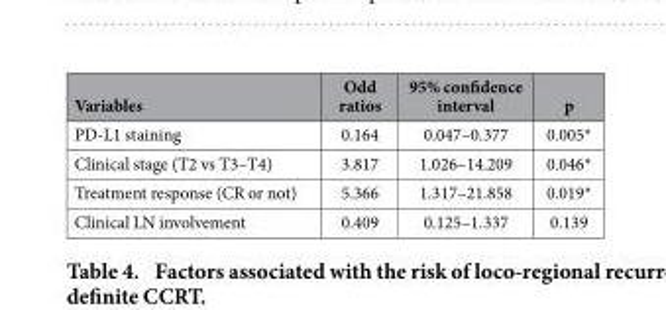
<table><thead><tr><td>Variables</td><td>Odd ratios</td><td>95% confidence interval</td><td>p</td></tr></thead><tbody><tr><td>PD-L1 staining</td><td>0.164</td><td>0.047–0.377</td><td>0.005*</td></tr><tr><td>Clinical stage (T2 vs T3–T4)</td><td>3.817</td><td>1.026–14.209</td><td>0.046*</td></tr><tr><td>Treatment response (CR or not)</td><td>5.366</td><td>1.317–21.858</td><td>0.019*</td></tr><tr><td>Clinical LN involvement</td><td>0.409</td><td>0.125–1.337</td><td>0.139</td></tr></tbody></table>